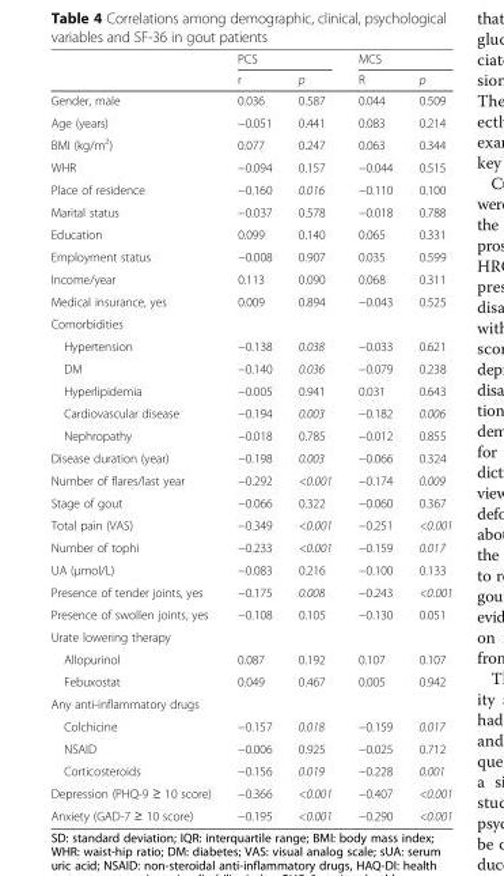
<table><thead><tr><td rowspan="2"></td><td colspan="2">PCS</td><td colspan="2">MCS</td></tr><tr><td>r</td><td>p</td><td>R</td><td>p</td></tr></thead><tbody><tr><td>Gender, male</td><td>0.036</td><td>0.587</td><td>0.044</td><td>0.509</td></tr><tr><td>Age (years)</td><td>−0.051</td><td>0.441</td><td>0.083</td><td>0.214</td></tr><tr><td>BMI (kg/m<sup>2</sup>)</td><td>0.077</td><td>0.247</td><td>0.063</td><td>0.344</td></tr><tr><td>WHR</td><td>−0.094</td><td>0.157</td><td>−0.044</td><td>0.515</td></tr><tr><td>Place of residence</td><td>−0.160</td><td>0.016</td><td>−0.110</td><td>0.100</td></tr><tr><td>Marital status</td><td>−0.037</td><td>0.578</td><td>−0.018</td><td>0.788</td></tr><tr><td>Education</td><td>0.099</td><td>0.140</td><td>0.065</td><td>0.331</td></tr><tr><td>Employment status</td><td>−0.008</td><td>0.907</td><td>0.035</td><td>0.599</td></tr><tr><td>Income/year</td><td>0.113</td><td>0.090</td><td>0.068</td><td>0.311</td></tr><tr><td>Medical insurance, yes</td><td>0.009</td><td>0.894</td><td>−0.043</td><td>0.525</td></tr><tr><td colspan="5">Comorbidities</td></tr><tr><td>Hypertension</td><td>−0.138</td><td>0.038</td><td>−0.033</td><td>0.621</td></tr><tr><td>DM</td><td>−0.140</td><td>0.036</td><td>−0.079</td><td>0.238</td></tr><tr><td>Hyperlipidemia</td><td>−0.005</td><td>0.941</td><td>0.031</td><td>0.643</td></tr><tr><td>Cardiovascular disease</td><td>−0.194</td><td>0.003</td><td>−0.182</td><td>0.006</td></tr><tr><td>Nephropathy</td><td>−0.018</td><td>0.785</td><td>−0.012</td><td>0.855</td></tr><tr><td>Disease duration (year)</td><td>−0.198</td><td>0.003</td><td>−0.066</td><td>0.324</td></tr><tr><td>Number of flares/last year</td><td>−0.292</td><td>&lt;0.001</td><td>−0.174</td><td>0.009</td></tr><tr><td>Stage of gout</td><td>−0.066</td><td>0.322</td><td>−0.060</td><td>0.367</td></tr><tr><td>Total pain (VAS)</td><td>−0.349</td><td>&lt;0.001</td><td>−0.251</td><td>&lt;0.001</td></tr><tr><td>Number of tophi</td><td>−0.233</td><td>&lt;0.001</td><td>−0.159</td><td>0.017</td></tr><tr><td>UA (μmol/L)</td><td>−0.083</td><td>0.216</td><td>−0.100</td><td>0.133</td></tr><tr><td>Presence of tender joints, yes</td><td>−0.175</td><td>0.008</td><td>−0.243</td><td>&lt;0.001</td></tr><tr><td>Presence of swollen joints, yes</td><td>−0.108</td><td>0.105</td><td>−0.130</td><td>0.051</td></tr><tr><td colspan="5">Urate lowering therapy</td></tr><tr><td>Allopurinol</td><td>0.087</td><td>0.192</td><td>0.107</td><td>0.107</td></tr><tr><td>Febuxostat</td><td>0.049</td><td>0.467</td><td>0.005</td><td>0.942</td></tr><tr><td colspan="5">Any anti-inflammatory drugs</td></tr><tr><td>Colchicine</td><td>−0.157</td><td>0.018</td><td>−0.159</td><td>0.017</td></tr><tr><td>NSAID</td><td>−0.006</td><td>0.925</td><td>−0.025</td><td>0.712</td></tr><tr><td>Corticosteroids</td><td>−0.156</td><td>0.019</td><td>−0.228</td><td>0.001</td></tr><tr><td>Depression (PHQ-9 ≥ 10 score)</td><td>−0.366</td><td>&lt;0.001</td><td>−0.407</td><td>&lt;0.001</td></tr><tr><td>Anxiety (GAD-7 ≥ 10 score)</td><td>−0.195</td><td>&lt;0.001</td><td>−0.290</td><td>&lt;0.001</td></tr></tbody></table>